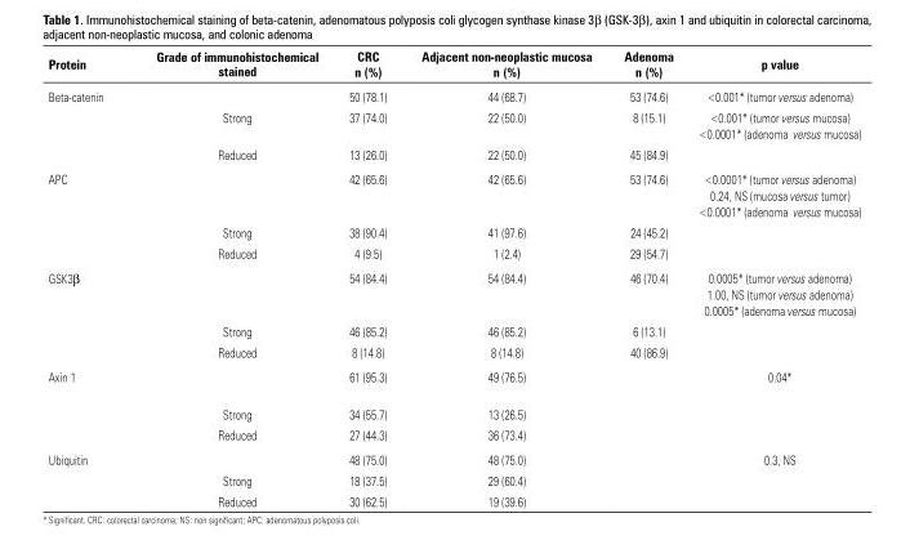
<table><thead><tr><td rowspan="2">Protein</td><td rowspan="2">Grade of immunohistochemical stained</td><td rowspan="2">CRC n (%)</td><td rowspan="2">Adjacent non-neoplastic mucosa n (%)</td><td rowspan="2">Adenoma n (%)</td><td rowspan="2">p value</td></tr><tr></tr></thead><tbody><tr><td rowspan="3">Beta-catenin</td><td></td><td>50 (78.1)</td><td>44 (68.7)</td><td>53 (74.6)</td><td>&lt;0.001* (tumor versus adenoma)</td></tr><tr><td>Strong</td><td>37 (74.0)</td><td>22 (50.0)</td><td>8 (15.1)</td><td>&lt;0.001* (tumor versus mucosa) &lt;0.0001* (adenoma versus mucosa)</td></tr><tr><td>Reduced</td><td>13 (26.0)</td><td>22 (50.0)</td><td>45 (84.9)</td><td></td></tr><tr><td rowspan="3">APC</td><td></td><td>42 (65.6)</td><td>42 (65.6)</td><td>53 (74.6)</td><td>&lt;0.0001* (tumor versus adenoma) 0.24, NS (mucosa versus tumor) &lt;0.0001* (adenoma versus mucosa)</td></tr><tr><td>Strong</td><td>38 (90.4)</td><td>41 (97.6)</td><td>24 (45.2)</td><td></td></tr><tr><td>Reduced</td><td>4 (9.5)</td><td>1 (2.4)</td><td>29 (54.7)</td><td></td></tr><tr><td rowspan="3">GSK3β</td><td></td><td>54 (84.4)</td><td>54 (84.4)</td><td>46 (70.4)</td><td>0.0005* (tumor versus adenoma) 1.00, NS (tumor versus adenoma) 0.0005* (adenoma versus mucosa)</td></tr><tr><td>Strong</td><td>46 (85.2)</td><td>46 (85.2)</td><td>6 (13.1)</td><td></td></tr><tr><td>Reduced</td><td>8 (14.8)</td><td>8 (14.8)</td><td>40 (86.9)</td><td></td></tr><tr><td rowspan="3">Axin 1</td><td></td><td>61 (95.3)</td><td>49 (76.5)</td><td></td><td>0.04*</td></tr><tr><td>Strong</td><td>34 (55.7)</td><td>13 (26.5)</td><td></td><td></td></tr><tr><td>Reduced</td><td>27 (44.3)</td><td>36 (73.4)</td><td></td><td></td></tr><tr><td rowspan="3">Ubiquitin</td><td></td><td>48 (75.0)</td><td>48 (75.0)</td><td></td><td>0.3, NS</td></tr><tr><td>Strong</td><td>18 (37.5)</td><td>29 (60.4)</td><td></td><td></td></tr><tr><td>Reduced</td><td>30 (62.5)</td><td>19 (39.6)</td><td></td><td></td></tr></tbody></table>